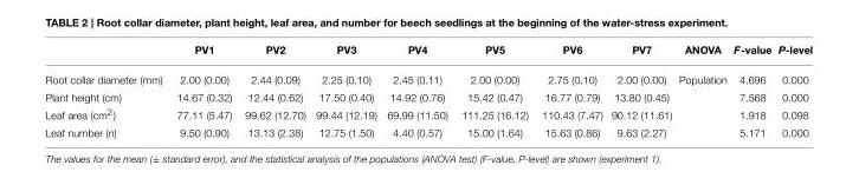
<table><thead><tr><td></td><td>PV1</td><td>PV2</td><td>PV3</td><td>PV4</td><td>PV5</td><td>PV6</td><td>PV7</td><td>ANOVA</td><td>F-value</td><td>P-level</td></tr></thead><tbody><tr><td>Root collar diameter (mm)</td><td>2.00 (0.00)</td><td>2.44 (0.09)</td><td>2.25 (0.10)</td><td>2.45 (0.11)</td><td>2.00 (0.00)</td><td>2.75 (0.10)</td><td>2.00 (0.00)</td><td>Population</td><td>4.696</td><td>0.000</td></tr><tr><td>Plant height (cm)</td><td>14.67 (0.32)</td><td>12.44 (0.62)</td><td>17.50 (0.40)</td><td>14.92 (0.76)</td><td>15.42 (0.47)</td><td>16.77 (0.79)</td><td>13.80 (0.45)</td><td></td><td>7.568</td><td>0.000</td></tr><tr><td>Leaf area (cm<sup>2</sup>)</td><td>77.11 (5.47)</td><td>99.62 (12.70)</td><td>99.44 (12.19)</td><td>69.99 (11.50)</td><td>111.25 (16.12)</td><td>110.43 (7.47)</td><td>90.12 (11.61)</td><td></td><td>1.918</td><td>0.098</td></tr><tr><td>Leaf number (n)</td><td>9.50 (0.90)</td><td>13.13 (2.38)</td><td>12.75 (1.50)</td><td>4.40 (0.57)</td><td>15.00 (1.64)</td><td>15.63 (0.86)</td><td>9.63 (2.27)</td><td></td><td>5.171</td><td>0.000</td></tr></tbody></table>